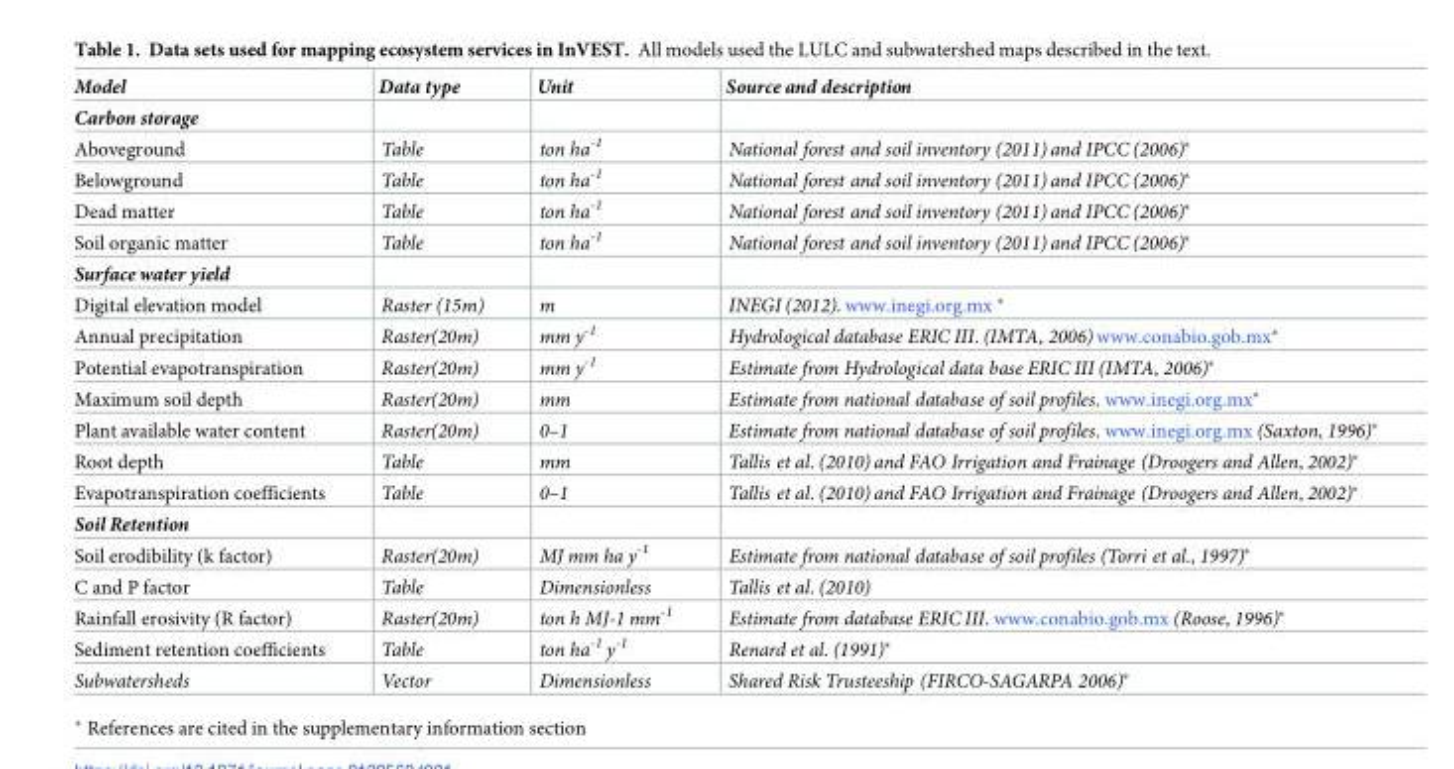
<table><thead><tr><td>Model</td><td>Data type</td><td>Unit</td><td>Source and description</td></tr></thead><tbody><tr><td colspan="4">Carbon storage</td></tr><tr><td>Aboveground</td><td>Table</td><td>ton ha<sup>-1</sup></td><td>National forest and soil inventory (2011) and IPCC (2006)*</td></tr><tr><td>Belowground</td><td>Table</td><td>ton ha<sup>-1</sup></td><td>National forest and soil inventory (2011) and IPCC (2006)*</td></tr><tr><td>Dead matter</td><td>Table</td><td>ton ha<sup>-1</sup></td><td>National forest and soil inventory (2011) and IPCC (2006)*</td></tr><tr><td>Soil organic matter</td><td>Table</td><td>ton ha<sup>-1</sup></td><td>National forest and soil inventory (2011) and IPCC (2006)*</td></tr><tr><td colspan="4">Surface water yield</td></tr><tr><td>Digital elevation model</td><td>Raster (15m)</td><td>m</td><td>INEGI (2012). www.inegi.org.mx *</td></tr><tr><td>Annual precipitation</td><td>Raster(20m)</td><td>mm y<sup>-1</sup></td><td>Hydrological database ERIC III. (IMTA, 2006) www.conabio.gob.mx*</td></tr><tr><td>Potential evapotranspiration</td><td>Raster(20m)</td><td>mm y<sup>-1</sup></td><td>Estimate from Hydrological data base ERIC III (IMTA, 2006)*</td></tr><tr><td>Maximum soil depth</td><td>Raster(20m)</td><td>mm</td><td>Estimate from national database of soil profiles. www.inegi.org.mx*</td></tr><tr><td>Plant available water content</td><td>Raster(20m)</td><td>0–1</td><td>Estimate from national database of soil profiles. www.inegi.org.mx (Saxton, 1996)*</td></tr><tr><td>Root depth</td><td>Table</td><td>mm</td><td>Tallis et al. (2010) and FAO Irrigation and Frainage (Droogers and Allen, 2002)*</td></tr><tr><td>Evapotranspiration coefficients</td><td>Table</td><td>0–1</td><td>Tallis et al. (2010) and FAO Irrigation and Frainage (Droogers and Allen, 2002)*</td></tr><tr><td colspan="4">Soil Retention</td></tr><tr><td>Soil erodibility (k factor)</td><td>Raster(20m)</td><td>MJ mm ha y<sup>-1</sup></td><td>Estimate from national database of soil profiles (Torri et al., 1997)*</td></tr><tr><td>C and P factor</td><td>Table</td><td>Dimensionless</td><td>Tallis et al. (2010)</td></tr><tr><td>Rainfall erosivity (R factor)</td><td>Raster(20m)</td><td>ton h MJ-1 mm<sup>-1</sup></td><td>Estimate from database ERIC III. www.conabio.gob.mx (Roose, 1996)*</td></tr><tr><td>Sediment retention coefficients</td><td>Table</td><td>ton ha<sup>-1</sup> y<sup>-1</sup></td><td>Renard et al. (1991)*</td></tr><tr><td>Subwatersheds</td><td>Vector</td><td>Dimensionless</td><td>Shared Risk Trusteeship (FIRCO-SAGARPA 2006)*</td></tr></tbody></table>